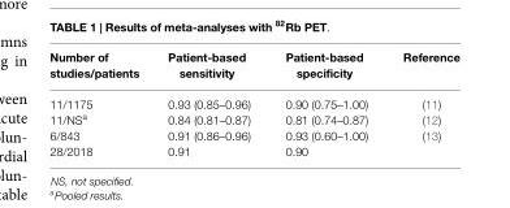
<table><thead><tr><td>Number of studies/patients</td><td>Patient-based sensitivity</td><td>Patient-based specificity</td><td>Reference</td></tr></thead><tbody><tr><td>11/1175</td><td>0.93 (0.85–0.96)</td><td>0.90 (0.75–1.00)</td><td>(11)</td></tr><tr><td>11/NS<sup>a</sup></td><td>0.84 (0.81–0.87)</td><td>0.81 (0.74–0.87)</td><td>(12)</td></tr><tr><td>6/843</td><td>0.91 (0.86–0.96)</td><td>0.93 (0.60–1.00)</td><td>(13)</td></tr><tr><td>28/2018</td><td>0.91</td><td>0.90</td><td></td></tr></tbody></table>